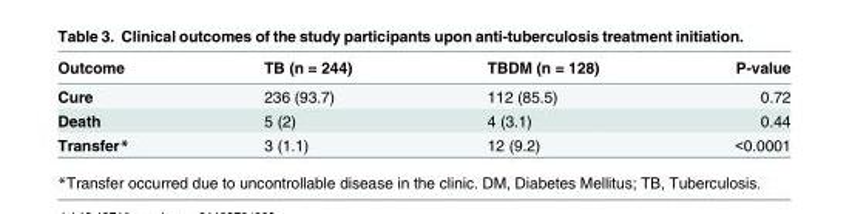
<table><thead><tr><td>Outcome</td><td>TB (n = 244)</td><td>TBDM (n = 128)</td><td>P-value</td></tr></thead><tbody><tr><td>Cure</td><td>236 (93.7)</td><td>112 (85.5)</td><td>0.72</td></tr><tr><td>Death</td><td>5 (2)</td><td>4 (3.1)</td><td>0.44</td></tr><tr><td>Transfer*</td><td>3 (1.1)</td><td>12 (9.2)</td><td>&lt;0.0001</td></tr></tbody></table>